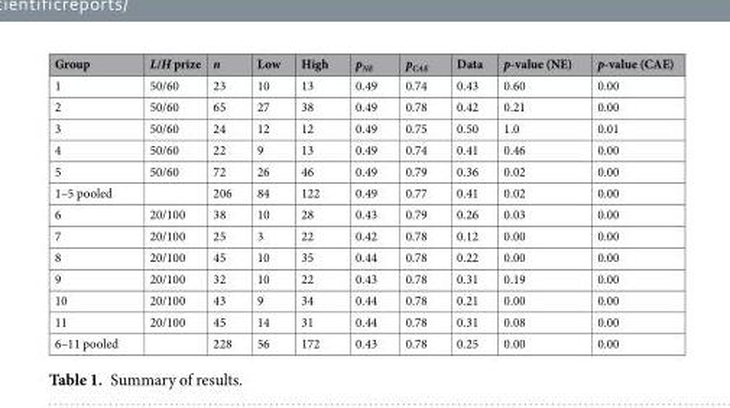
<table><thead><tr><td>Group</td><td>L/H prize</td><td>n</td><td>Low</td><td>High</td><td>p<sub>NE</sub></td><td>p<sub>CAE</sub></td><td>Data</td><td>p-value (NE)</td><td>p-value (CAE)</td></tr></thead><tbody><tr><td>1</td><td>50/60</td><td>23</td><td>10</td><td>13</td><td>0.49</td><td>0.74</td><td>0.43</td><td>0.60</td><td>0.00</td></tr><tr><td>2</td><td>50/60</td><td>65</td><td>27</td><td>38</td><td>0.49</td><td>0.78</td><td>0.42</td><td>0.21</td><td>0.00</td></tr><tr><td>3</td><td>50/60</td><td>24</td><td>12</td><td>12</td><td>0.49</td><td>0.75</td><td>0.50</td><td>1.0</td><td>0.01</td></tr><tr><td>4</td><td>50/60</td><td>22</td><td>9</td><td>13</td><td>0.49</td><td>0.74</td><td>0.41</td><td>0.46</td><td>0.00</td></tr><tr><td>5</td><td>50/60</td><td>72</td><td>26</td><td>46</td><td>0.49</td><td>0.79</td><td>0.36</td><td>0.02</td><td>0.00</td></tr><tr><td>1–5 pooled</td><td></td><td>206</td><td>84</td><td>122</td><td>0.49</td><td>0.77</td><td>0.41</td><td>0.02</td><td>0.00</td></tr><tr><td>6</td><td>20/100</td><td>38</td><td>10</td><td>28</td><td>0.43</td><td>0.79</td><td>0.26</td><td>0.03</td><td>0.00</td></tr><tr><td>7</td><td>20/100</td><td>25</td><td>3</td><td>22</td><td>0.42</td><td>0.78</td><td>0.12</td><td>0.00</td><td>0.00</td></tr><tr><td>8</td><td>20/100</td><td>45</td><td>10</td><td>35</td><td>0.44</td><td>0.78</td><td>0.22</td><td>0.00</td><td>0.00</td></tr><tr><td>9</td><td>20/100</td><td>32</td><td>10</td><td>22</td><td>0.43</td><td>0.78</td><td>0.31</td><td>0.19</td><td>0.00</td></tr><tr><td>10</td><td>20/100</td><td>43</td><td>9</td><td>34</td><td>0.44</td><td>0.78</td><td>0.21</td><td>0.00</td><td>0.00</td></tr><tr><td>11</td><td>20/100</td><td>45</td><td>14</td><td>31</td><td>0.44</td><td>0.78</td><td>0.31</td><td>0.08</td><td>0.00</td></tr><tr><td>6–11 pooled</td><td></td><td>228</td><td>56</td><td>172</td><td>0.43</td><td>0.78</td><td>0.25</td><td>0.00</td><td>0.00</td></tr></tbody></table>